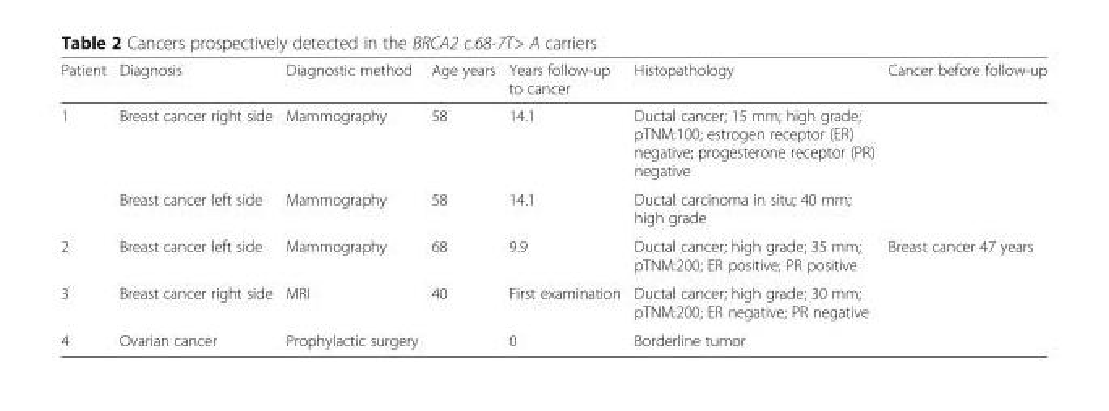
<table><thead><tr><td>Patient</td><td>Diagnosis</td><td>Diagnostic method</td><td>Age years</td><td>Years follow-up to cancer</td><td>Histopathology</td><td>Cancer before follow-up</td></tr></thead><tbody><tr><td rowspan="2">1</td><td>Breast cancer right side</td><td>Mammography</td><td>58</td><td>14.1</td><td>Ductal cancer; 15 mm; high grade; pTNM:100; estrogen receptor (ER) negative; progesterone receptor (PR) negative</td><td></td></tr><tr><td>Breast cancer left side</td><td>Mammography</td><td>58</td><td>14.1</td><td>Ductal carcinoma in situ; 40 mm; high grade</td><td></td></tr><tr><td>2</td><td>Breast cancer left side</td><td>Mammography</td><td>68</td><td>9.9</td><td>Ductal cancer; high grade; 35 mm; pTNM:200; ER positive; PR positive</td><td>Breast cancer 47 years</td></tr><tr><td>3</td><td>Breast cancer right side</td><td>MRI</td><td>40</td><td>First examination</td><td>Ductal cancer; high grade; 30 mm; pTNM:200; ER negative; PR negative</td><td></td></tr><tr><td>4</td><td>Ovarian cancer</td><td>Prophylactic surgery</td><td></td><td>0</td><td>Borderline tumor</td><td></td></tr></tbody></table>